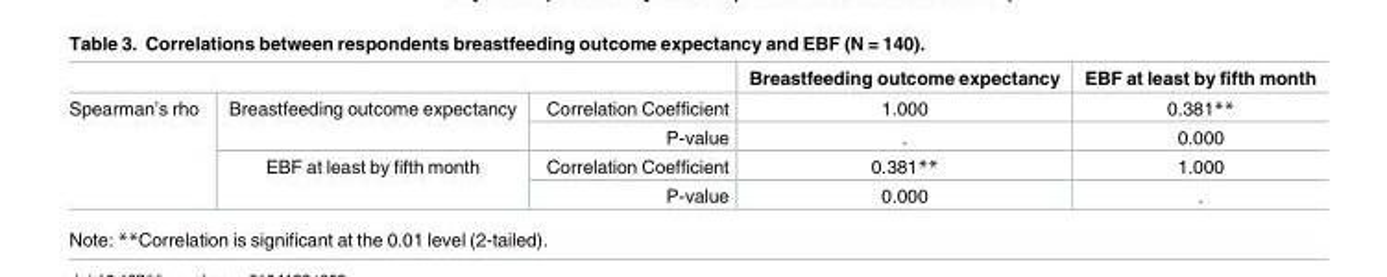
<table><thead><tr><td></td><td></td><td></td><td>Breastfeeding outcome expectancy</td><td>EBF at least by fifth month</td></tr></thead><tbody><tr><td rowspan="4">Spearman’s rho</td><td rowspan="2">Breastfeeding outcome expectancy</td><td>Correlation Coefficient</td><td>1.000</td><td>0.381**</td></tr><tr><td>P-value</td><td>.</td><td>0.000</td></tr><tr><td rowspan="2">EBF at least by fifth month</td><td>Correlation Coefficient</td><td>0.381**</td><td>1.000</td></tr><tr><td>P-value</td><td>0.000</td><td>.</td></tr></tbody></table>